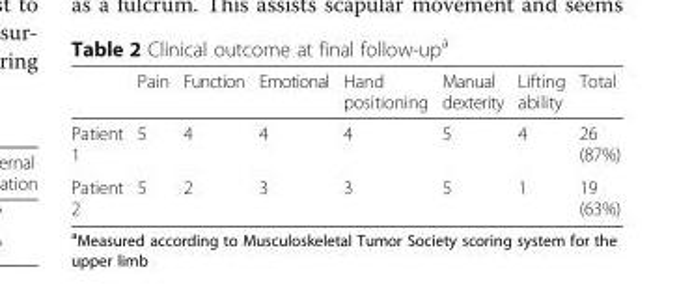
<table><thead><tr><td></td><td>Pain</td><td>Function</td><td>Emotional</td><td>Hand positioning</td><td>Manual dexterity</td><td>Lifting ability</td><td>Total</td></tr></thead><tbody><tr><td>Patient 1</td><td>5</td><td>4</td><td>4</td><td>4</td><td>5</td><td>4</td><td>26 (87%)</td></tr><tr><td>Patient 2</td><td>5</td><td>2</td><td>3</td><td>3</td><td>5</td><td>1</td><td>19 (63%)</td></tr></tbody></table>